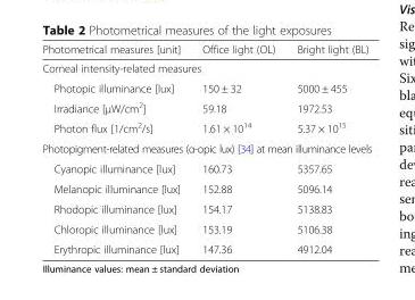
<table><thead><tr><td>Photometrical measures [unit]</td><td>Office light (OL)</td><td>Bright light (BL)</td></tr></thead><tbody><tr><td colspan="3">Corneal intensity-related measures</td></tr><tr><td>Photopic illuminance [lux]</td><td>150 ± 32</td><td>5000 ± 455</td></tr><tr><td>Irradiance [μW/cm<sup>2</sup>]</td><td>59.18</td><td>1972.53</td></tr><tr><td>Photon flux [1/cm<sup>2</sup>/s]</td><td>1.61 × 10<sup>14</sup></td><td>5.37 × 10<sup>15</sup></td></tr><tr><td colspan="3">Photopigment-related measures (α-opic lux) [34] at mean illuminance levels</td></tr><tr><td>Cyanopic illuminance [lux]</td><td>160.73</td><td>5357.65</td></tr><tr><td>Melanopic illuminance [lux]</td><td>152.88</td><td>5096.14</td></tr><tr><td>Rhodopic illuminance [lux]</td><td>154.17</td><td>5138.83</td></tr><tr><td>Chloropic illuminance [lux]</td><td>153.19</td><td>5106.38</td></tr><tr><td>Erythropic illuminance [lux]</td><td>147.36</td><td>4912.04</td></tr></tbody></table>